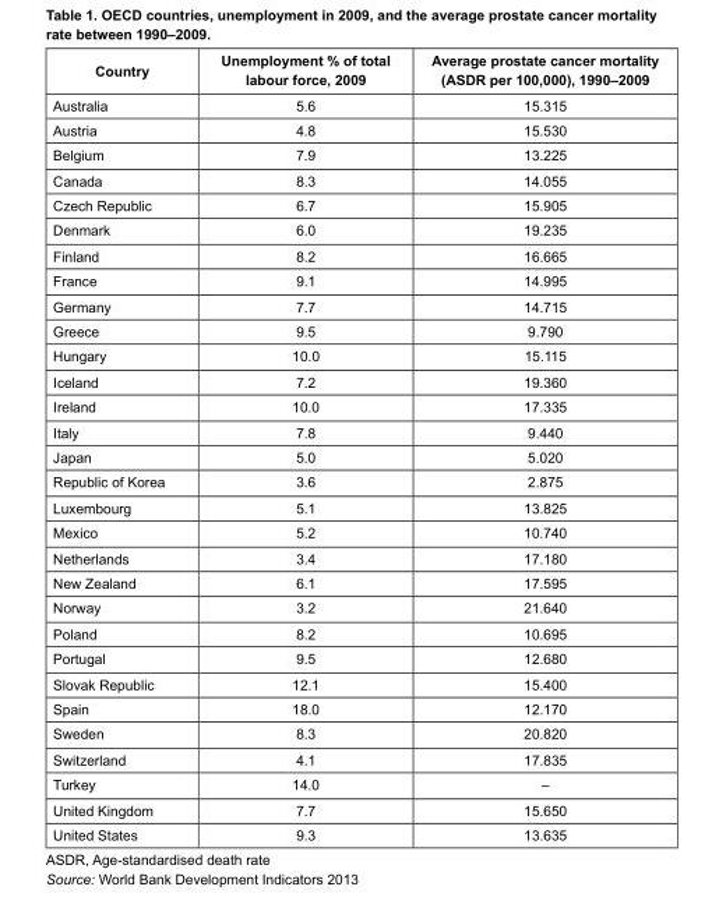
<table><thead><tr><td>Country</td><td>Unemployment % of total labour force, 2009</td><td>Average prostate cancer mortality (ASDR per 100,000), 1990–2009</td></tr></thead><tbody><tr><td>Australia</td><td>5.6</td><td>15.315</td></tr><tr><td>Austria</td><td>4.8</td><td>15.530</td></tr><tr><td>Belgium</td><td>7.9</td><td>13.225</td></tr><tr><td>Canada</td><td>8.3</td><td>14.055</td></tr><tr><td>Czech Republic</td><td>6.7</td><td>15.905</td></tr><tr><td>Denmark</td><td>6.0</td><td>19.235</td></tr><tr><td>Finland</td><td>8.2</td><td>16.665</td></tr><tr><td>France</td><td>9.1</td><td>14.995</td></tr><tr><td>Germany</td><td>7.7</td><td>14.715</td></tr><tr><td>Greece</td><td>9.5</td><td>9.790</td></tr><tr><td>Hungary</td><td>10.0</td><td>15.115</td></tr><tr><td>Iceland</td><td>7.2</td><td>19.360</td></tr><tr><td>Ireland</td><td>10.0</td><td>17.335</td></tr><tr><td>Italy</td><td>7.8</td><td>9.440</td></tr><tr><td>Japan</td><td>5.0</td><td>5.020</td></tr><tr><td>Republic of Korea</td><td>3.6</td><td>2.875</td></tr><tr><td>Luxembourg</td><td>5.1</td><td>13.825</td></tr><tr><td>Mexico</td><td>5.2</td><td>10.740</td></tr><tr><td>Netherlands</td><td>3.4</td><td>17.180</td></tr><tr><td>New Zealand</td><td>6.1</td><td>17.595</td></tr><tr><td>Norway</td><td>3.2</td><td>21.640</td></tr><tr><td>Poland</td><td>8.2</td><td>10.695</td></tr><tr><td>Portugal</td><td>9.5</td><td>12.680</td></tr><tr><td>Slovak Republic</td><td>12.1</td><td>15.400</td></tr><tr><td>Spain</td><td>18.0</td><td>12.170</td></tr><tr><td>Sweden</td><td>8.3</td><td>20.820</td></tr><tr><td>Switzerland</td><td>4.1</td><td>17.835</td></tr><tr><td>Turkey</td><td>14.0</td><td>–</td></tr><tr><td>United Kingdom</td><td>7.7</td><td>15.650</td></tr><tr><td>United States</td><td>9.3</td><td>13.635</td></tr></tbody></table>